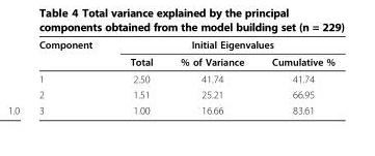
<table><thead><tr><td rowspan="2">Component</td><td colspan="3">Initial Eigenvalues</td></tr><tr><td>Total</td><td>% of Variance</td><td>Cumulative %</td></tr></thead><tbody><tr><td>1</td><td>2.50</td><td>41.74</td><td>41.74</td></tr><tr><td>2</td><td>1.51</td><td>25.21</td><td>66.95</td></tr><tr><td>3</td><td>1.00</td><td>16.66</td><td>83.61</td></tr></tbody></table>